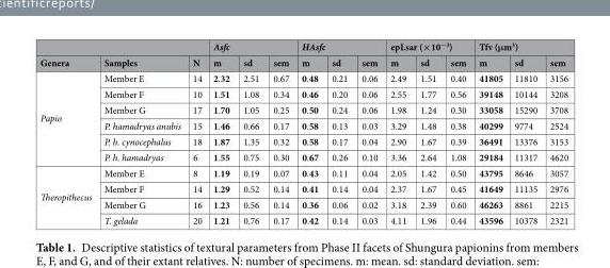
<table><thead><tr><td rowspan="2">Genera</td><td rowspan="2">Samples</td><td rowspan="2">N</td><td colspan="3">Asfc</td><td colspan="3">HAsfc</td><td colspan="3">epLsar (×10<sup>−3</sup>)</td><td colspan="3">Tfv (μm<sup>3</sup>)</td></tr><tr><td>m</td><td>sd</td><td>sem</td><td>m</td><td>sd</td><td>sem</td><td>m</td><td>sd</td><td>sem</td><td>m</td><td>sd</td><td>sem</td></tr></thead><tbody><tr><td rowspan="6">Papio</td><td>Member E</td><td>14</td><td>2.32</td><td>2.51</td><td>0.67</td><td>0.48</td><td>0.21</td><td>0.06</td><td>2.49</td><td>1.51</td><td>0.40</td><td>41805</td><td>11810</td><td>3156</td></tr><tr><td>Member F</td><td>10</td><td>1.51</td><td>1.08</td><td>0.34</td><td>0.46</td><td>0.20</td><td>0.06</td><td>2.55</td><td>1.77</td><td>0.56</td><td>39148</td><td>10144</td><td>3208</td></tr><tr><td>Member G</td><td>17</td><td>1.70</td><td>1.05</td><td>0.25</td><td>0.50</td><td>0.24</td><td>0.06</td><td>1.98</td><td>1.24</td><td>0.30</td><td>33058</td><td>15290</td><td>3708</td></tr><tr><td>P. hamadryas anubis</td><td>15</td><td>1.46</td><td>0.66</td><td>0.17</td><td>0.58</td><td>0.13</td><td>0.03</td><td>3.29</td><td>1.48</td><td>0.38</td><td>40299</td><td>9774</td><td>2524</td></tr><tr><td>P. h. cynocephalus</td><td>18</td><td>1.87</td><td>1.35</td><td>0.32</td><td>0.58</td><td>0.17</td><td>0.04</td><td>2.90</td><td>1.67</td><td>0.39</td><td>36491</td><td>13376</td><td>3153</td></tr><tr><td>P. h. hamadryas</td><td>6</td><td>1.55</td><td>0.75</td><td>0.30</td><td>0.67</td><td>0.26</td><td>0.10</td><td>3.36</td><td>2.64</td><td>1.08</td><td>29184</td><td>11317</td><td>4620</td></tr><tr><td rowspan="4">Theropithecus</td><td>Member E</td><td>8</td><td>1.19</td><td>0.19</td><td>0.07</td><td>0.43</td><td>0.11</td><td>0.04</td><td>2.05</td><td>1.42</td><td>0.50</td><td>43795</td><td>8646</td><td>3057</td></tr><tr><td>Member F</td><td>14</td><td>1.29</td><td>0.52</td><td>0.14</td><td>0.41</td><td>0.14</td><td>0.04</td><td>2.37</td><td>1.67</td><td>0.45</td><td>41649</td><td>11135</td><td>2976</td></tr><tr><td>Member G</td><td>16</td><td>1.23</td><td>0.56</td><td>0.14</td><td>0.36</td><td>0.06</td><td>0.02</td><td>3.18</td><td>2.39</td><td>0.60</td><td>46263</td><td>8861</td><td>2215</td></tr><tr><td>T. gelada</td><td>20</td><td>1.21</td><td>0.76</td><td>0.17</td><td>0.42</td><td>0.14</td><td>0.03</td><td>4.11</td><td>1.96</td><td>0.44</td><td>43596</td><td>10378</td><td>2321</td></tr></tbody></table>